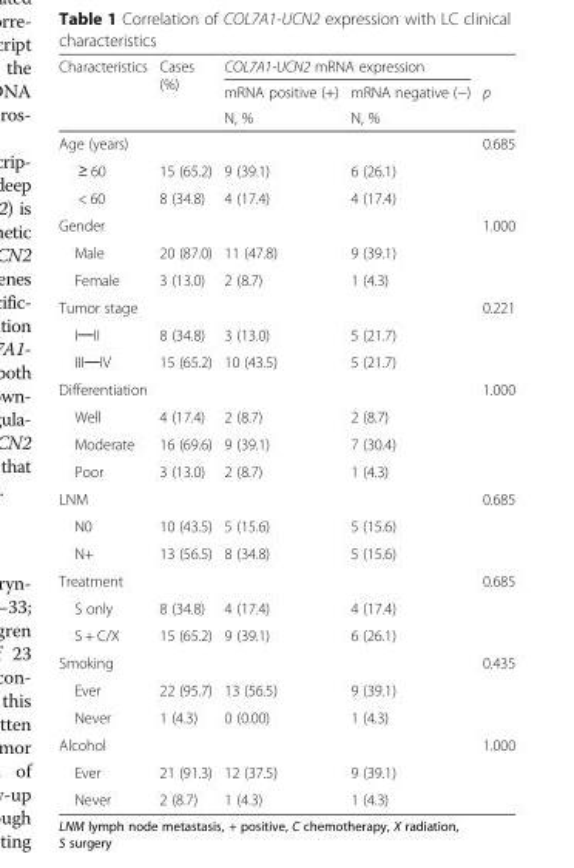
<table><thead><tr><td rowspan="3">Characteristics</td><td rowspan="3">Cases (%)</td><td colspan="2">COL7A1-UCN2 mRNA expression</td><td rowspan="3">p</td></tr><tr><td rowspan="2">mRNA positive (+) N, %</td><td rowspan="2">mRNA negative (−) N, %</td></tr><tr></tr></thead><tbody><tr><td colspan="4">Age (years)</td><td>0.685</td></tr><tr><td>≥ 60</td><td>15 (65.2)</td><td>9 (39.1)</td><td>6 (26.1)</td><td></td></tr><tr><td>&lt; 60</td><td>8 (34.8)</td><td>4 (17.4)</td><td>4 (17.4)</td><td></td></tr><tr><td colspan="4">Gender</td><td>1.000</td></tr><tr><td>Male</td><td>20 (87.0)</td><td>11 (47.8)</td><td>9 (39.1)</td><td></td></tr><tr><td>Female</td><td>3 (13.0)</td><td>2 (8.7)</td><td>1 (4.3)</td><td></td></tr><tr><td colspan="4">Tumor stage</td><td>0.221</td></tr><tr><td>I─II</td><td>8 (34.8)</td><td>3 (13.0)</td><td>5 (21.7)</td><td></td></tr><tr><td>III─IV</td><td>15 (65.2)</td><td>10 (43.5)</td><td>5 (21.7)</td><td></td></tr><tr><td colspan="4">Differentiation</td><td>1.000</td></tr><tr><td>Well</td><td>4 (17.4)</td><td>2 (8.7)</td><td>2 (8.7)</td><td></td></tr><tr><td>Moderate</td><td>16 (69.6)</td><td>9 (39.1)</td><td>7 (30.4)</td><td></td></tr><tr><td>Poor</td><td>3 (13.0)</td><td>2 (8.7)</td><td>1 (4.3)</td><td></td></tr><tr><td colspan="4">LNM</td><td>0.685</td></tr><tr><td>N0</td><td>10 (43.5)</td><td>5 (15.6)</td><td>5 (15.6)</td><td></td></tr><tr><td>N+</td><td>13 (56.5)</td><td>8 (34.8)</td><td>5 (15.6)</td><td></td></tr><tr><td colspan="4">Treatment</td><td>0.685</td></tr><tr><td>S only</td><td>8 (34.8)</td><td>4 (17.4)</td><td>4 (17.4)</td><td></td></tr><tr><td>S + C/X</td><td>15 (65.2)</td><td>9 (39.1)</td><td>6 (26.1)</td><td></td></tr><tr><td colspan="4">Smoking</td><td>0.435</td></tr><tr><td>Ever</td><td>22 (95.7)</td><td>13 (56.5)</td><td>9 (39.1)</td><td></td></tr><tr><td>Never</td><td>1 (4.3)</td><td>0 (0.00)</td><td>1 (4.3)</td><td></td></tr><tr><td colspan="4">Alcohol</td><td>1.000</td></tr><tr><td>Ever</td><td>21 (91.3)</td><td>12 (37.5)</td><td>9 (39.1)</td><td></td></tr><tr><td>Never</td><td>2 (8.7)</td><td>1 (4.3)</td><td>1 (4.3)</td><td></td></tr></tbody></table>